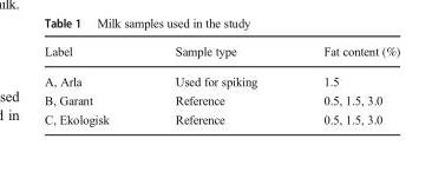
<table><thead><tr><td>Label</td><td>Sample type</td><td>Fat content (%)</td></tr></thead><tbody><tr><td>A, Arla</td><td>Used for spiking</td><td>1.5</td></tr><tr><td>B, Garant</td><td>Reference</td><td>0.5, 1.5, 3.0</td></tr><tr><td>C, Ekologisk</td><td>Reference</td><td>0.5, 1.5, 3.0</td></tr></tbody></table>